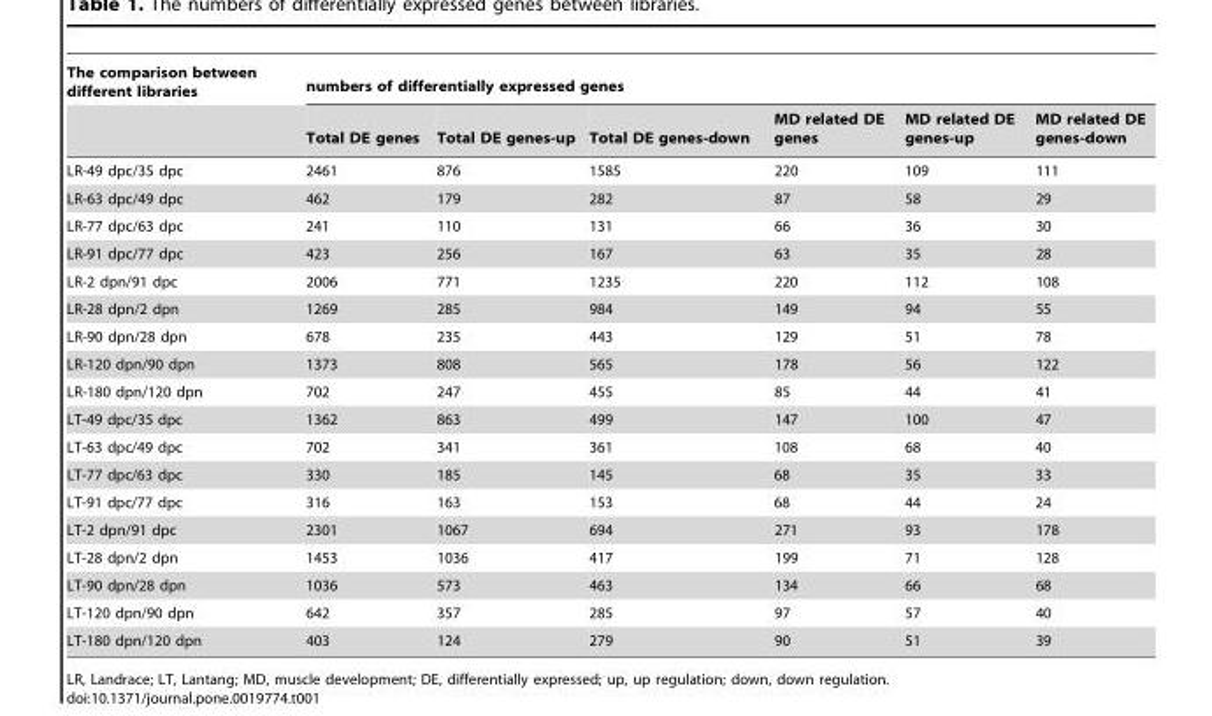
<table><thead><tr><td rowspan="2">The comparison between different libraries</td><td colspan="6">numbers of differentially expressed genes</td></tr><tr><td>Total DE genes</td><td>Total DE genes-up</td><td>Total DE genes-down</td><td>MD related DE genes</td><td>MD related DE genes-up</td><td>MD related DE genes-down</td></tr></thead><tbody><tr><td>LR-49 dpc/35 dpc</td><td>2461</td><td>876</td><td>1585</td><td>220</td><td>109</td><td>111</td></tr><tr><td>LR-63 dpc/49 dpc</td><td>462</td><td>179</td><td>282</td><td>87</td><td>58</td><td>29</td></tr><tr><td>LR-77 dpc/63 dpc</td><td>241</td><td>110</td><td>131</td><td>66</td><td>36</td><td>30</td></tr><tr><td>LR-91 dpc/77 dpc</td><td>423</td><td>256</td><td>167</td><td>63</td><td>35</td><td>28</td></tr><tr><td>LR-2 dpn/91 dpc</td><td>2006</td><td>771</td><td>1235</td><td>220</td><td>112</td><td>108</td></tr><tr><td>LR-28 dpn/2 dpn</td><td>1269</td><td>285</td><td>984</td><td>149</td><td>94</td><td>55</td></tr><tr><td>LR-90 dpn/28 dpn</td><td>678</td><td>235</td><td>443</td><td>129</td><td>51</td><td>78</td></tr><tr><td>LR-120 dpn/90 dpn</td><td>1373</td><td>808</td><td>565</td><td>178</td><td>56</td><td>122</td></tr><tr><td>LR-180 dpn/120 dpn</td><td>702</td><td>247</td><td>455</td><td>85</td><td>44</td><td>41</td></tr><tr><td>LT-49 dpc/35 dpc</td><td>1362</td><td>863</td><td>499</td><td>147</td><td>100</td><td>47</td></tr><tr><td>LT-63 dpc/49 dpc</td><td>702</td><td>341</td><td>361</td><td>108</td><td>68</td><td>40</td></tr><tr><td>LT-77 dpc/63 dpc</td><td>330</td><td>185</td><td>145</td><td>68</td><td>35</td><td>33</td></tr><tr><td>LT-91 dpc/77 dpc</td><td>316</td><td>163</td><td>153</td><td>68</td><td>44</td><td>24</td></tr><tr><td>LT-2 dpn/91 dpc</td><td>2301</td><td>1067</td><td>694</td><td>271</td><td>93</td><td>178</td></tr><tr><td>LT-28 dpn/2 dpn</td><td>1453</td><td>1036</td><td>417</td><td>199</td><td>71</td><td>128</td></tr><tr><td>LT-90 dpn/28 dpn</td><td>1036</td><td>573</td><td>463</td><td>134</td><td>66</td><td>68</td></tr><tr><td>LT-120 dpn/90 dpn</td><td>642</td><td>357</td><td>285</td><td>97</td><td>57</td><td>40</td></tr><tr><td>LT-180 dpn/120 dpn</td><td>403</td><td>124</td><td>279</td><td>90</td><td>51</td><td>39</td></tr></tbody></table>